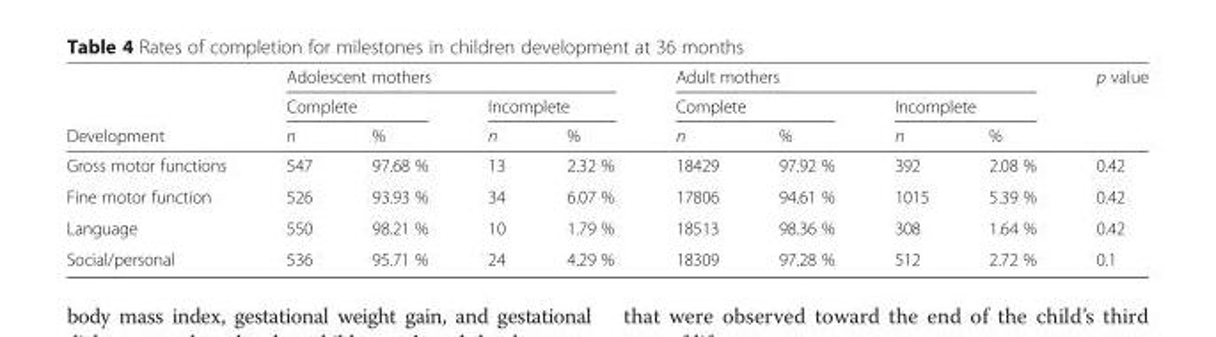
<table><thead><tr><td rowspan="3">Development</td><td colspan="4">Adolescent mothers</td><td colspan="4">Adult mothers</td><td rowspan="3">p value</td></tr><tr><td colspan="2">Complete</td><td colspan="2">Incomplete</td><td colspan="2">Complete</td><td colspan="2">Incomplete</td></tr><tr><td>n</td><td>%</td><td>n</td><td>%</td><td>n</td><td>%</td><td>n</td><td>%</td></tr></thead><tbody><tr><td>Gross motor functions</td><td>547</td><td>97.68 %</td><td>13</td><td>2.32 %</td><td>18429</td><td>97.92 %</td><td>392</td><td>2.08 %</td><td>0.42</td></tr><tr><td>Fine motor function</td><td>526</td><td>93.93 %</td><td>34</td><td>6.07 %</td><td>17806</td><td>94.61 %</td><td>1015</td><td>5.39 %</td><td>0.42</td></tr><tr><td>Language</td><td>550</td><td>98.21 %</td><td>10</td><td>1.79 %</td><td>18513</td><td>98.36 %</td><td>308</td><td>1.64 %</td><td>0.42</td></tr><tr><td>Social/personal</td><td>536</td><td>95.71 %</td><td>24</td><td>4.29 %</td><td>18309</td><td>97.28 %</td><td>512</td><td>2.72 %</td><td>0.1</td></tr></tbody></table>